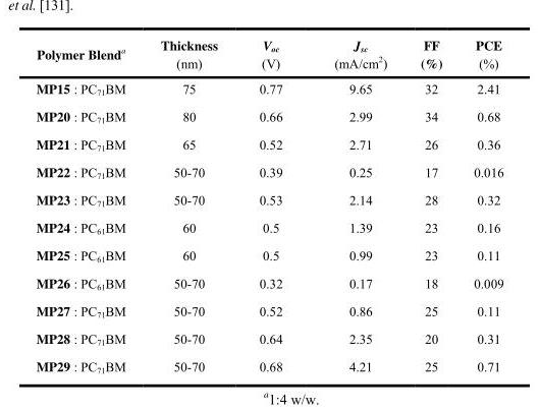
<table><thead><tr><td>Polymer Blenda</td><td>Thickness (nm)</td><td>V<sub>oc</sub> (V)</td><td>J<sub>sc</sub> (mA/cm<sup>2</sup>)</td><td>FF (%)</td><td>PCE (%)</td></tr></thead><tbody><tr><td>MP15 : PC<sub>71</sub>BM</td><td>75</td><td>0.77</td><td>9.65</td><td>32</td><td>2.41</td></tr><tr><td>MP20 : PC<sub>71</sub>BM</td><td>80</td><td>0.66</td><td>2.99</td><td>34</td><td>0.68</td></tr><tr><td>MP21 : PC<sub>71</sub>BM</td><td>65</td><td>0.52</td><td>2.71</td><td>26</td><td>0.36</td></tr><tr><td>MP22 : PC<sub>71</sub>BM</td><td>50-70</td><td>0.39</td><td>0.25</td><td>17</td><td>0.016</td></tr><tr><td>MP23 : PC<sub>71</sub>BM</td><td>50-70</td><td>0.53</td><td>2.14</td><td>28</td><td>0.32</td></tr><tr><td>MP24 : PC<sub>61</sub>BM</td><td>60</td><td>0.5</td><td>1.39</td><td>23</td><td>0.16</td></tr><tr><td>MP25 : PC<sub>61</sub>BM</td><td>60</td><td>0.5</td><td>0.99</td><td>23</td><td>0.11</td></tr><tr><td>MP26 : PC<sub>61</sub>BM</td><td>50-70</td><td>0.32</td><td>0.17</td><td>18</td><td>0.009</td></tr><tr><td>MP27 : PC<sub>71</sub>BM</td><td>50-70</td><td>0.52</td><td>0.86</td><td>25</td><td>0.11</td></tr><tr><td>MP28 : PC<sub>71</sub>BM</td><td>50-70</td><td>0.64</td><td>2.35</td><td>20</td><td>0.31</td></tr><tr><td>MP29 : PC<sub>71</sub>BM</td><td>50-70</td><td>0.68</td><td>4.21</td><td>25</td><td>0.71</td></tr></tbody></table>